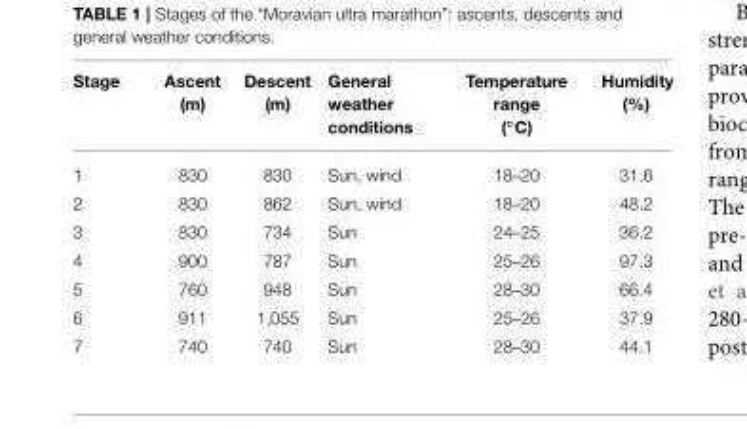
<table><thead><tr><td>Stage</td><td>Ascent (m)</td><td>Descent (m)</td><td>General weather conditions</td><td>Temperature range (◦C)</td><td>Humidity (%)</td></tr></thead><tbody><tr><td>1</td><td>830</td><td>830</td><td>Sun, wind</td><td>18–20</td><td>31.6</td></tr><tr><td>2</td><td>830</td><td>862</td><td>Sun, wind</td><td>18–20</td><td>48.2</td></tr><tr><td>3</td><td>830</td><td>734</td><td>Sun</td><td>24–25</td><td>36.2</td></tr><tr><td>4</td><td>900</td><td>787</td><td>Sun</td><td>25–26</td><td>97.3</td></tr><tr><td>5</td><td>760</td><td>948</td><td>Sun</td><td>28–30</td><td>66.4</td></tr><tr><td>6</td><td>911</td><td>1,055</td><td>Sun</td><td>25–26</td><td>37.9</td></tr><tr><td>7</td><td>740</td><td>740</td><td>Sun</td><td>28–30</td><td>44.1</td></tr></tbody></table>